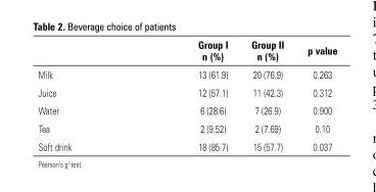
<table><thead><tr><td></td><td>Group I n (%)</td><td>Group II n (%)</td><td>p value</td></tr></thead><tbody><tr><td>Milk</td><td>13 (61.9)</td><td>20 (76.9)</td><td>0.263</td></tr><tr><td>Juice</td><td>12 (57.1)</td><td>11 (42.3)</td><td>0.312</td></tr><tr><td>Water</td><td>6 (28.6)</td><td>7 (26.9)</td><td>0.900</td></tr><tr><td>Tea</td><td>2 (9.52)</td><td>2 (7.69)</td><td>0.10</td></tr><tr><td>Soft drink</td><td>18 (85.7)</td><td>15 (57.7)</td><td>0.037</td></tr></tbody></table>